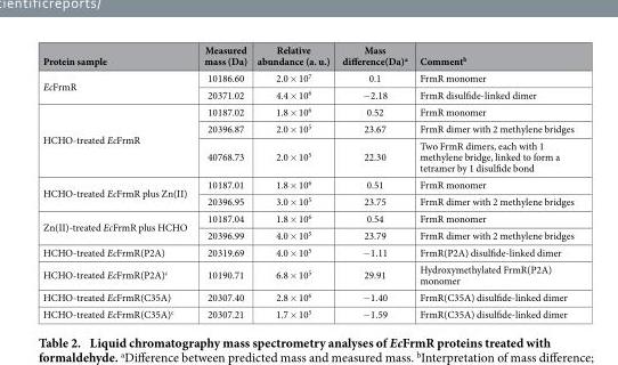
<table><thead><tr><td>Protein sample</td><td>Measured mass (Da)</td><td>Relative abundance (a. u.)</td><td>Mass difference(Da)<sup>a</sup></td><td>Comment<sup>b</sup></td></tr></thead><tbody><tr><td rowspan="2">EcFrmR</td><td>10186.60</td><td>2.0 × 10<sup>7</sup></td><td>0.1</td><td>FrmR monomer</td></tr><tr><td>20371.02</td><td>4.4 × 10<sup>6</sup></td><td>− 2.18</td><td>FrmR disulfide-linked dimer</td></tr><tr><td rowspan="3">HCHO-treated EcFrmR</td><td>10187.02</td><td>1.8 × 10<sup>6</sup></td><td>0.52</td><td>FrmR monomer</td></tr><tr><td>20396.87</td><td>2.0 × 10<sup>5</sup></td><td>23.67</td><td>FrmR dimer with 2 methylene bridges</td></tr><tr><td>40768.73</td><td>2.0 × 10<sup>5</sup></td><td>22.30</td><td>Two FrmR dimers, each with 1 methylene bridge, linked to form a tetramer by 1 disulfide bond</td></tr><tr><td rowspan="2">HCHO-treated EcFrmR plus Zn(II)</td><td>10187.01</td><td>1.8 × 10<sup>6</sup></td><td>0.51</td><td>FrmR monomer</td></tr><tr><td>20396.95</td><td>3.0 × 10<sup>5</sup></td><td>23.75</td><td>FrmR dimer with 2 methylene bridges</td></tr><tr><td rowspan="2">Zn(II)-treated EcFrmR plus HCHO</td><td>10187.04</td><td>1.8 × 10<sup>6</sup></td><td>0.54</td><td>FrmR monomer</td></tr><tr><td>20396.99</td><td>4.0 × 10<sup>5</sup></td><td>23.79</td><td>FrmR dimer with 2 methylene bridges</td></tr><tr><td>HCHO-treated EcFrmR(P2A)</td><td>20319.69</td><td>4.0 × 10<sup>5</sup></td><td>− 1.11</td><td>FrmR(P2A) disulfide-linked dimer</td></tr><tr><td>HCHO-treated EcFrmR(P2A)<sup>c</sup></td><td>10190.71</td><td>6.8 × 10<sup>5</sup></td><td>29.91</td><td>Hydroxymethylated FrmR(P2A) monomer</td></tr><tr><td>HCHO-treated EcFrmR(C35A)</td><td>20307.40</td><td>2.8 × 10<sup>6</sup></td><td>− 1.40</td><td>FrmR(C35A) disulfide-linked dimer</td></tr><tr><td>HCHO-treated EcFrmR(C35A)<sup>c</sup></td><td>20307.21</td><td>1.7 × 10<sup>5</sup></td><td>− 1.59</td><td>FrmR(C35A) disulfide-linked dimer</td></tr></tbody></table>